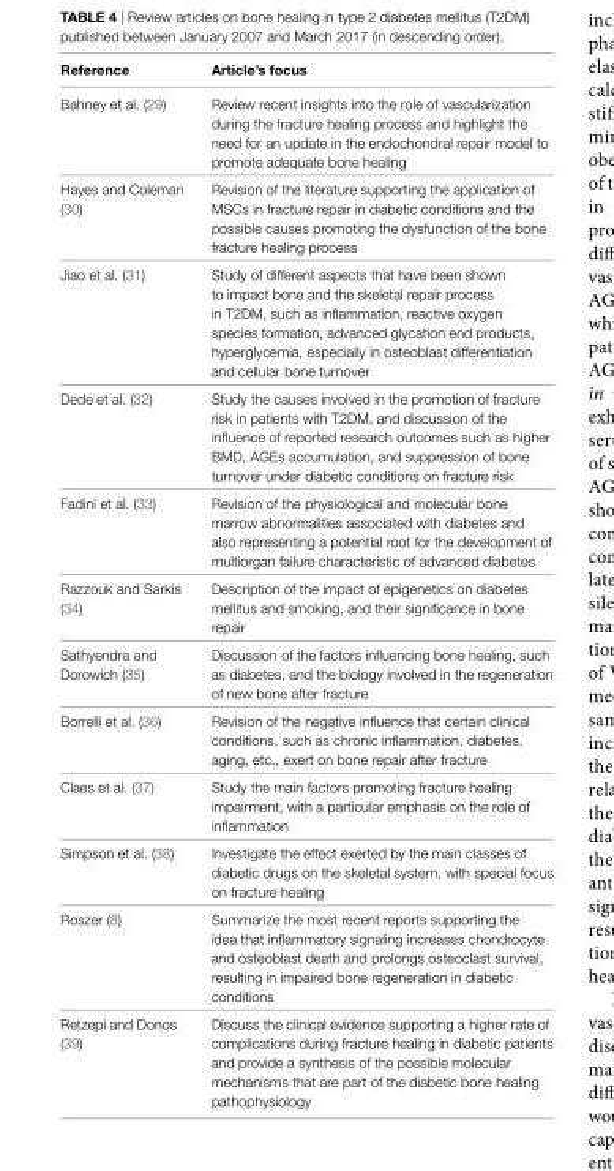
<table><thead><tr><td>Reference</td><td>article’s focus</td></tr></thead><tbody><tr><td>Bahney et al. (29)</td><td>Review recent insights into the role of vascularization during the fracture healing process and highlight the need for an update in the endochondral repair model to promote adequate bone healing</td></tr><tr><td>Hayes and Coleman (30)</td><td>Revision of the literature supporting the application of MSCs in fracture repair in diabetic conditions and the possible causes promoting the dysfunction of the bone fracture healing process</td></tr><tr><td>Jiao et al. (31)</td><td>Study of different aspects that have been shown to impact bone and the skeletal repair process in T2DM, such as inflammation, reactive oxygen species formation, advanced glycation end products, hyperglycemia, especially in osteoblast differentiation and cellular bone turnover</td></tr><tr><td>Dede et al. (32)</td><td>Study the causes involved in the promotion of fracture risk in patients with T2DM, and discussion of the influence of reported research outcomes such as higher BMD, AGEs accumulation, and suppression of bone turnover under diabetic conditions on fracture risk</td></tr><tr><td>Fadini et al. (33)</td><td>Revision of the physiological and molecular bone marrow abnormalities associated with diabetes and also representing a potential root for the development of multiorgan failure characteristic of advanced diabetes</td></tr><tr><td>Razzouk and Sarkis (34)</td><td>Description of the impact of epigenetics on diabetes mellitus and smoking, and their significance in bone repair</td></tr><tr><td>Sathyendra and Dorowich (35)</td><td>Discussion of the factors influencing bone healing, such as diabetes, and the biology involved in the regeneration of new bone after fracture</td></tr><tr><td>Borrelli et al. (36)</td><td>Revision of the negative influence that certain clinical conditions, such as chronic inflammation, diabetes, aging, etc., exert on bone repair after fracture</td></tr><tr><td>Claes et al. (37)</td><td>Study the main factors promoting fracture healing impairment, with a particular emphasis on the role of inflammation</td></tr><tr><td>Simpson et al. (38)</td><td>Investigate the effect exerted by the main classes of diabetic drugs on the skeletal system, with special focus on fracture healing</td></tr><tr><td>Roszer (8)</td><td>Summarize the most recent reports supporting the idea that inflammatory signaling increases chondrocyte and osteoblast death and prolongs osteoclast survival, resulting in impaired bone regeneration in diabetic conditions</td></tr><tr><td>Retzepi and Donos (39)</td><td>Discuss the clinical evidence supporting a higher rate of complications during fracture healing in diabetic patients and provide a synthesis of the possible molecular mechanisms that are part of the diabetic bone healing pathophysiology</td></tr></tbody></table>